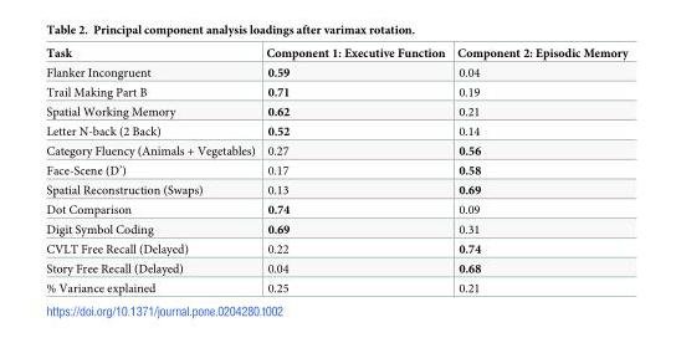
<table><thead><tr><td>Task</td><td>Component 1: Executive Function</td><td>Component 2: Episodic Memory</td></tr></thead><tbody><tr><td>Flanker Incongruent</td><td>0.59</td><td>0.04</td></tr><tr><td>Trail Making Part B</td><td>0.71</td><td>0.19</td></tr><tr><td>Spatial Working Memory</td><td>0.62</td><td>0.21</td></tr><tr><td>Letter N-back (2 Back)</td><td>0.52</td><td>0.14</td></tr><tr><td>Category Fluency (Animals + Vegetables)</td><td>0.27</td><td>0.56</td></tr><tr><td>Face-Scene (D’)</td><td>0.17</td><td>0.58</td></tr><tr><td>Spatial Reconstruction (Swaps)</td><td>0.13</td><td>0.69</td></tr><tr><td>Dot Comparison</td><td>0.74</td><td>0.09</td></tr><tr><td>Digit Symbol Coding</td><td>0.69</td><td>0.31</td></tr><tr><td>CVLT Free Recall (Delayed)</td><td>0.22</td><td>0.74</td></tr><tr><td>Story Free Recall (Delayed)</td><td>0.04</td><td>0.68</td></tr><tr><td>% Variance explained</td><td>0.25</td><td>0.21</td></tr></tbody></table>